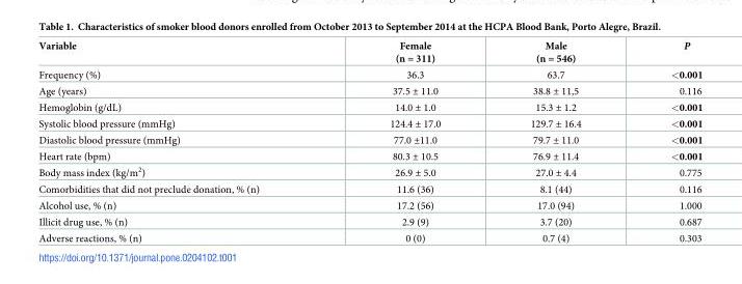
<table><thead><tr><td>Variable</td><td>Female (n = 311)</td><td>Male (n = 546)</td><td>P</td></tr></thead><tbody><tr><td>Frequency (%)</td><td>36.3</td><td>63.7</td><td>&lt;0.001</td></tr><tr><td>Age (years)</td><td>37.5 ± 11.0</td><td>38.8 ± 11,5</td><td>0.116</td></tr><tr><td>Hemoglobin (g/dL)</td><td>14.0 ± 1.0</td><td>15.3 ± 1.2</td><td>&lt;0.001</td></tr><tr><td>Systolic blood pressure (mmHg)</td><td>124.4 ± 17.0</td><td>129.7 ± 16.4</td><td>&lt;0.001</td></tr><tr><td>Diastolic blood pressure (mmHg)</td><td>77.0 ±11.0</td><td>79.7 ± 11.0</td><td>&lt;0.001</td></tr><tr><td>Heart rate (bpm)</td><td>80.3 ± 10.5</td><td>76.9 ± 11.4</td><td>&lt;0.001</td></tr><tr><td>Body mass index (kg/m<sup>2</sup>)</td><td>26.9 ± 5.0</td><td>27.0 ± 4.4</td><td>0.775</td></tr><tr><td>Comorbidities that did not preclude donation, % (n)</td><td>11.6 (36)</td><td>8.1 (44)</td><td>0.116</td></tr><tr><td>Alcohol use, % (n)</td><td>17.2 (56)</td><td>17.0 (94)</td><td>1.000</td></tr><tr><td>Illicit drug use, % (n)</td><td>2.9 (9)</td><td>3.7 (20)</td><td>0.687</td></tr><tr><td>Adverse reactions, % (n)</td><td>0 (0)</td><td>0.7 (4)</td><td>0.303</td></tr></tbody></table>